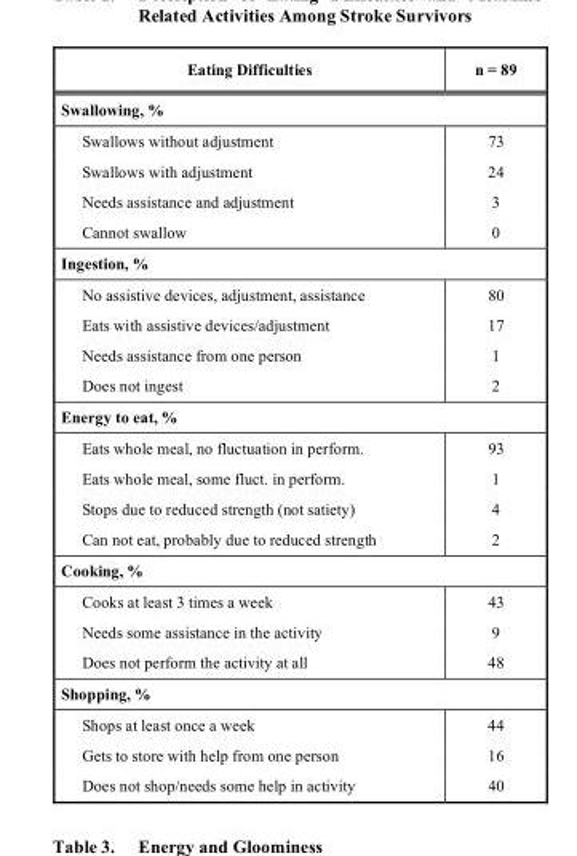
<table><thead><tr><td>Eating Difficulties</td><td>n = 89</td></tr></thead><tbody><tr><td colspan="2">Swallowing, %</td></tr><tr><td>Swallows without adjustment Swallows with adjustment Needs assistance and adjustment Cannot swallow</td><td>73 24 3 0</td></tr><tr><td colspan="2">Ingestion, %</td></tr><tr><td>No assistive devices, adjustment, assistance Eats with assistive devices/adjustment Needs assistance from one person Does not ingest</td><td>80 17 1 2</td></tr><tr><td colspan="2">Energy to eat, %</td></tr><tr><td>Eats whole meal, no fluctuation in perform. Eats whole meal, some fluct. in perform. Stops due to reduced strength (not satiety) Can not eat, probably due to reduced strength</td><td>93 1 4 2</td></tr><tr><td colspan="2">Cooking, %</td></tr><tr><td>Cooks at least 3 times a week Needs some assistance in the activity Does not perform the activity at all</td><td>43 9 48</td></tr><tr><td colspan="2">Shopping, %</td></tr><tr><td>Shops at least once a week Gets to store with help from one person Does not shop/needs some help in activity</td><td>44 16 40</td></tr></tbody></table>